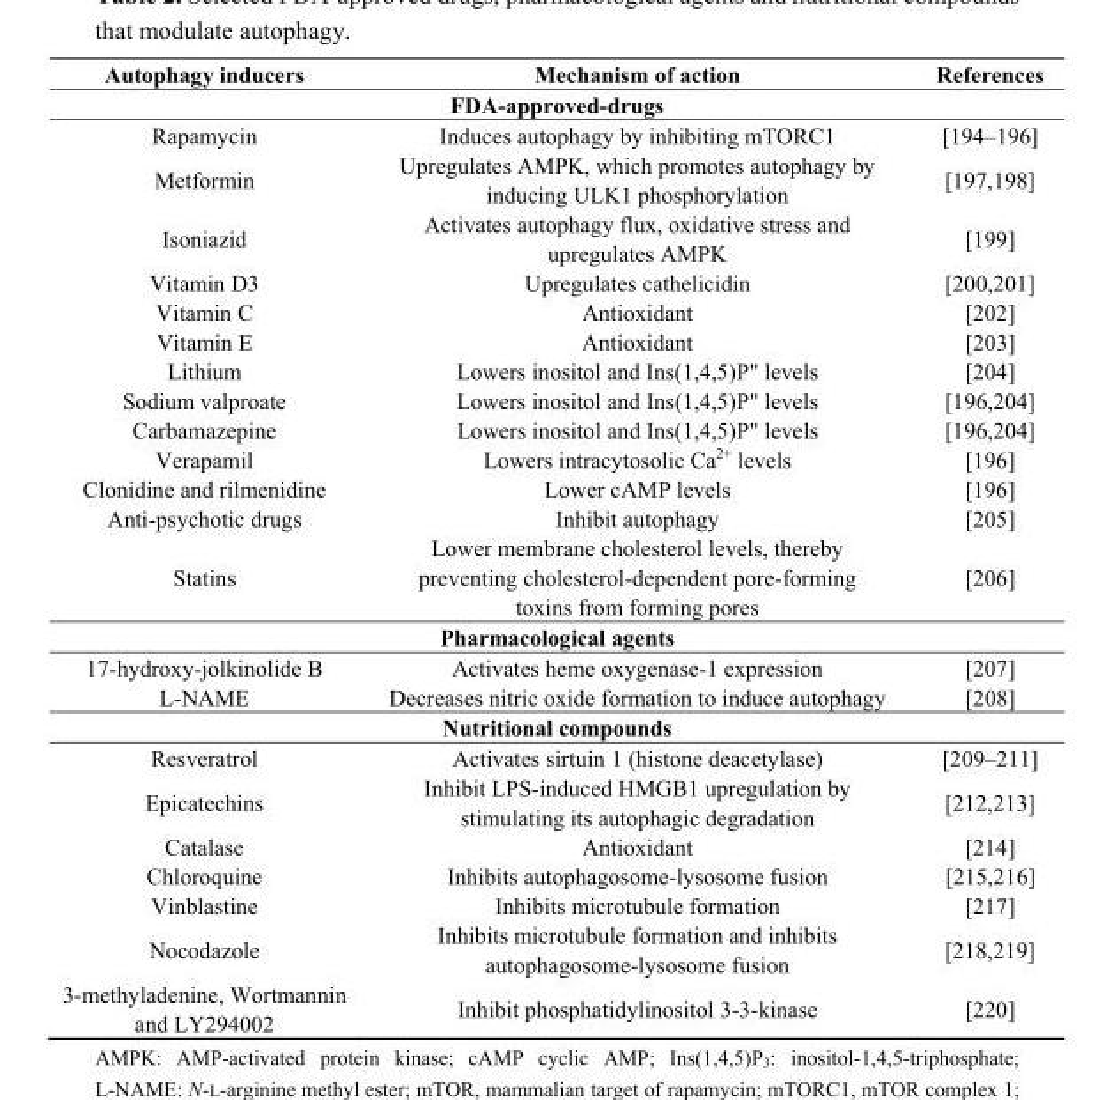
<table><thead><tr><td>Autophagy inducers</td><td>Mechanism of action</td><td>References</td></tr></thead><tbody><tr><td colspan="3">FDA-approved-drugs</td></tr><tr><td>Rapamycin</td><td>Induces autophagy by inhibiting mTORC1</td><td>[194–196]</td></tr><tr><td>Metformin</td><td>Upregulates AMPK, which promotes autophagy by inducing ULK1 phosphorylation</td><td>[197,198]</td></tr><tr><td>Isoniazid</td><td>Activates autophagy flux, oxidative stress and upregulates AMPK</td><td>[199]</td></tr><tr><td>Vitamin D3</td><td>Upregulates cathelicidin</td><td>[200,201]</td></tr><tr><td>Vitamin C</td><td>Antioxidant</td><td>[202]</td></tr><tr><td>Vitamin E</td><td>Antioxidant</td><td>[203]</td></tr><tr><td>Lithium</td><td>Lowers inositol and Ins(1,4,5)P&quot; levels</td><td>[204]</td></tr><tr><td>Sodium valproate</td><td>Lowers inositol and Ins(1,4,5)P&quot; levels</td><td>[196,204]</td></tr><tr><td>Carbamazepine</td><td>Lowers inositol and Ins(1,4,5)P&quot; levels</td><td>[196,204]</td></tr><tr><td>Verapamil</td><td>Lowers intracytosolic Ca<sup>2+</sup> levels</td><td>[196]</td></tr><tr><td>Clonidine and rilmenidine</td><td>Lower cAMP levels</td><td>[196]</td></tr><tr><td>Anti-psychotic drugs</td><td>Inhibit autophagy</td><td>[205]</td></tr><tr><td>Statins</td><td>Lower membrane cholesterol levels, thereby preventing cholesterol-dependent pore-forming toxins from forming pores</td><td>[206]</td></tr><tr><td colspan="3">Pharmacological agents</td></tr><tr><td>17-hydroxy-jolkinolide B</td><td>Activates heme oxygenase-1 expression</td><td>[207]</td></tr><tr><td>L-NAME</td><td>Decreases nitric oxide formation to induce autophagy</td><td>[208]</td></tr><tr><td colspan="3">Nutritional compounds</td></tr><tr><td>Resveratrol</td><td>Activates sirtuin 1 (histone deacetylase)</td><td>[209–211]</td></tr><tr><td>Epicatechins</td><td>Inhibit LPS-induced HMGB1 upregulation by stimulating its autophagic degradation</td><td>[212,213]</td></tr><tr><td>Catalase</td><td>Antioxidant</td><td>[214]</td></tr><tr><td>Chloroquine</td><td>Inhibits autophagosome-lysosome fusion</td><td>[215,216]</td></tr><tr><td>Vinblastine</td><td>Inhibits microtubule formation</td><td>[217]</td></tr><tr><td>Nocodazole</td><td>Inhibits microtubule formation and inhibits autophagosome-lysosome fusion</td><td>[218,219]</td></tr><tr><td>3-methyladenine, Wortmannin and LY294002</td><td>Inhibit phosphatidylinositol 3-3-kinase</td><td>[220]</td></tr></tbody></table>